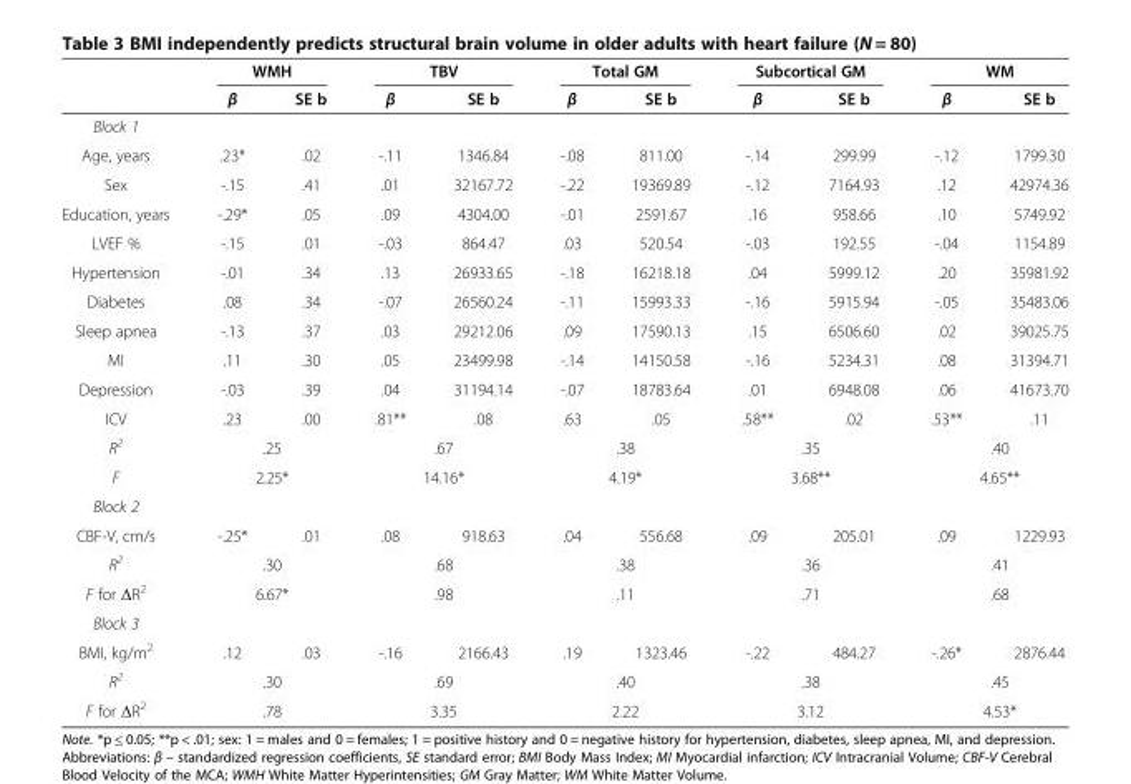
<table><thead><tr><td rowspan="2"></td><td colspan="2">WMH</td><td colspan="2">TBV</td><td colspan="2">Total GM</td><td colspan="2">Subcortical GM</td><td colspan="2">WM</td></tr><tr><td>β</td><td>SE b</td><td>β</td><td>SE b</td><td>β</td><td>SE b</td><td>β</td><td>SE b</td><td>β</td><td>SE b</td></tr></thead><tbody><tr><td colspan="11">Block 1</td></tr><tr><td>Age, years</td><td>.23*</td><td>.02</td><td>-.11</td><td>1346.84</td><td>-.08</td><td>811.00</td><td>-.14</td><td>299.99</td><td>-.12</td><td>1799.30</td></tr><tr><td>Sex</td><td>-.15</td><td>.41</td><td>.01</td><td>32167.72</td><td>-.22</td><td>19369.89</td><td>-.12</td><td>7164.93</td><td>.12</td><td>42974.36</td></tr><tr><td>Education, years</td><td>-.29*</td><td>.05</td><td>.09</td><td>4304.00</td><td>-.01</td><td>2591.67</td><td>.16</td><td>958.66</td><td>.10</td><td>5749.92</td></tr><tr><td>LVEF %</td><td>-.15</td><td>.01</td><td>-.03</td><td>864.47</td><td>.03</td><td>520.54</td><td>-.03</td><td>192.55</td><td>-.04</td><td>1154.89</td></tr><tr><td>Hypertension</td><td>-.01</td><td>.34</td><td>.13</td><td>26933.65</td><td>-.18</td><td>16218.18</td><td>.04</td><td>5999.12</td><td>.20</td><td>35981.92</td></tr><tr><td>Diabetes</td><td>.08</td><td>.34</td><td>-.07</td><td>26560.24</td><td>-.11</td><td>15993.33</td><td>-.16</td><td>5915.94</td><td>-.05</td><td>35483.06</td></tr><tr><td>Sleep apnea</td><td>-.13</td><td>.37</td><td>.03</td><td>29212.06</td><td>.09</td><td>17590.13</td><td>.15</td><td>6506.60</td><td>.02</td><td>39025.75</td></tr><tr><td>MI</td><td>.11</td><td>.30</td><td>.05</td><td>23499.98</td><td>-.14</td><td>14150.58</td><td>-.16</td><td>5234.31</td><td>.08</td><td>31394.71</td></tr><tr><td>Depression</td><td>-.03</td><td>.39</td><td>.04</td><td>31194.14</td><td>-.07</td><td>18783.64</td><td>.01</td><td>6948.08</td><td>.06</td><td>41673.70</td></tr><tr><td>ICV</td><td>.23</td><td>.00</td><td>.81**</td><td>.08</td><td>.63</td><td>.05</td><td>.58**</td><td>.02</td><td>.53**</td><td>.11</td></tr><tr><td>R<sup>2</sup></td><td colspan="2">.25</td><td colspan="2">.67</td><td colspan="2">.38</td><td colspan="2">.35</td><td colspan="2">.40</td></tr><tr><td>F</td><td colspan="2">2.25*</td><td colspan="2">14.16*</td><td colspan="2">4.19*</td><td colspan="2">3.68**</td><td colspan="2">4.65**</td></tr><tr><td colspan="11">Block 2</td></tr><tr><td>CBF-V, cm/s</td><td>-.25*</td><td>.01</td><td>.08</td><td>918.63</td><td>.04</td><td>556.68</td><td>.09</td><td>205.01</td><td>.09</td><td>1229.93</td></tr><tr><td>R<sup>2</sup></td><td colspan="2">.30</td><td colspan="2">.68</td><td colspan="2">.38</td><td colspan="2">.36</td><td colspan="2">.41</td></tr><tr><td>F for ΔR<sup>2</sup></td><td colspan="2">6.67*</td><td colspan="2">.98</td><td colspan="2">.11</td><td colspan="2">.71</td><td colspan="2">.68</td></tr><tr><td colspan="11">Block 3</td></tr><tr><td>BMI, kg/m<sup>2</sup></td><td>.12</td><td>.03</td><td>-.16</td><td>2166.43</td><td>.19</td><td>1323.46</td><td>-.22</td><td>484.27</td><td>-.26*</td><td>2876.44</td></tr><tr><td>R<sup>2</sup></td><td colspan="2">.30</td><td colspan="2">.69</td><td colspan="2">.40</td><td colspan="2">.38</td><td colspan="2">.45</td></tr><tr><td>F for ΔR<sup>2</sup></td><td colspan="2">.78</td><td colspan="2">3.35</td><td colspan="2">2.22</td><td colspan="2">3.12</td><td colspan="2">4.53*</td></tr></tbody></table>